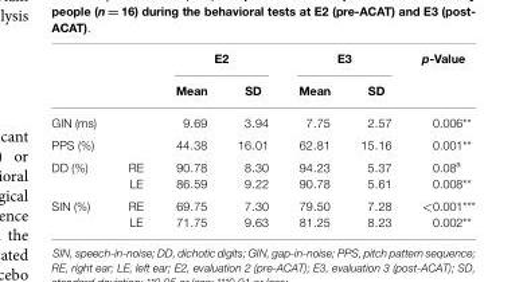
<table><thead><tr><td rowspan="2"></td><td rowspan="2"></td><td colspan="2">E2</td><td colspan="2">E3</td><td rowspan="2">p-Value</td></tr><tr><td>Mean</td><td>SD</td><td>Mean</td><td>SD</td></tr></thead><tbody><tr><td>GIN (ms)</td><td></td><td>9.69</td><td>3.94</td><td>7.75</td><td>2.57</td><td>0.006**</td></tr><tr><td>PPS (%)</td><td></td><td>44.38</td><td>16.01</td><td>62.81</td><td>15.16</td><td>0.001**</td></tr><tr><td rowspan="2">DD (%)</td><td>RE</td><td>90.78</td><td>8.30</td><td>94.23</td><td>5.37</td><td>0.08<sup>a</sup></td></tr><tr><td>LE</td><td>86.59</td><td>9.22</td><td>90.78</td><td>5.61</td><td>0.008**</td></tr><tr><td rowspan="2">SIN (%)</td><td>RE</td><td>69.75</td><td>7.30</td><td>79.50</td><td>7.28</td><td>&lt;0.001***</td></tr><tr><td>LE</td><td>71.75</td><td>9.63</td><td>81.25</td><td>8.23</td><td>0.002**</td></tr></tbody></table>